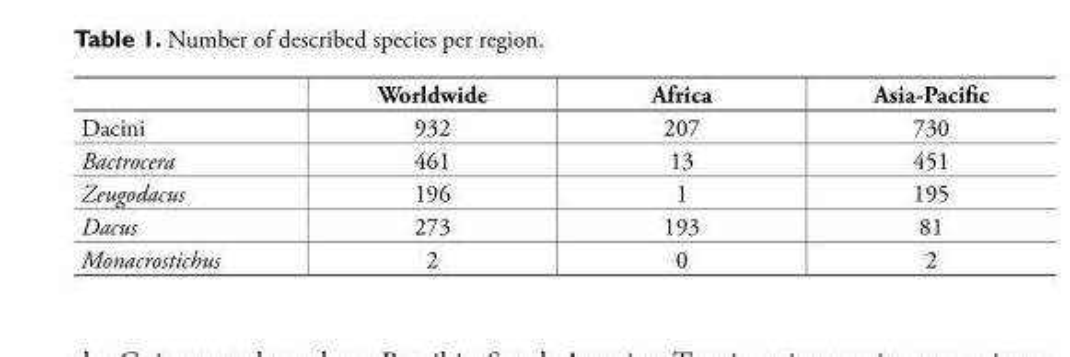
<table><thead><tr><td></td><td>Worldwide</td><td>Africa</td><td>Asia-Pacific</td></tr></thead><tbody><tr><td>Dacini</td><td>932</td><td>207</td><td>730</td></tr><tr><td>Bactrocera</td><td>461</td><td>13</td><td>451</td></tr><tr><td>Zeugodacus</td><td>196</td><td>1</td><td>195</td></tr><tr><td>Dacus</td><td>273</td><td>193</td><td>81</td></tr><tr><td>Monacrostichus</td><td>2</td><td>0</td><td>2</td></tr></tbody></table>